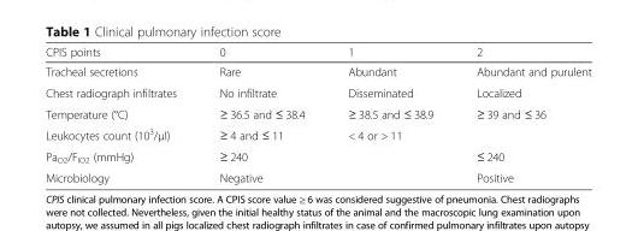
<table><thead><tr><td>CPIS points</td><td>0</td><td>1</td><td>2</td></tr></thead><tbody><tr><td>Tracheal secretions</td><td>Rare</td><td>Abundant</td><td>Abundant and purulent</td></tr><tr><td>Chest radiograph infiltrates</td><td>No infiltrate</td><td>Disseminated</td><td>Localized</td></tr><tr><td>Temperature (°C)</td><td>≥ 36.5 and ≤ 38.4</td><td>≥ 38.5 and ≤ 38.9</td><td>≥ 39 and ≤ 36</td></tr><tr><td>Leukocytes count (10<sup>3</sup>/μl)</td><td>≥ 4 and ≤ 11</td><td>&lt; 4 or &gt; 11</td><td></td></tr><tr><td>Pa<sub>O2</sub>/F<sub>IO2</sub> (mmHg)</td><td>≥ 240</td><td></td><td>≤ 240</td></tr><tr><td>Microbiology</td><td>Negative</td><td></td><td>Positive</td></tr></tbody></table>